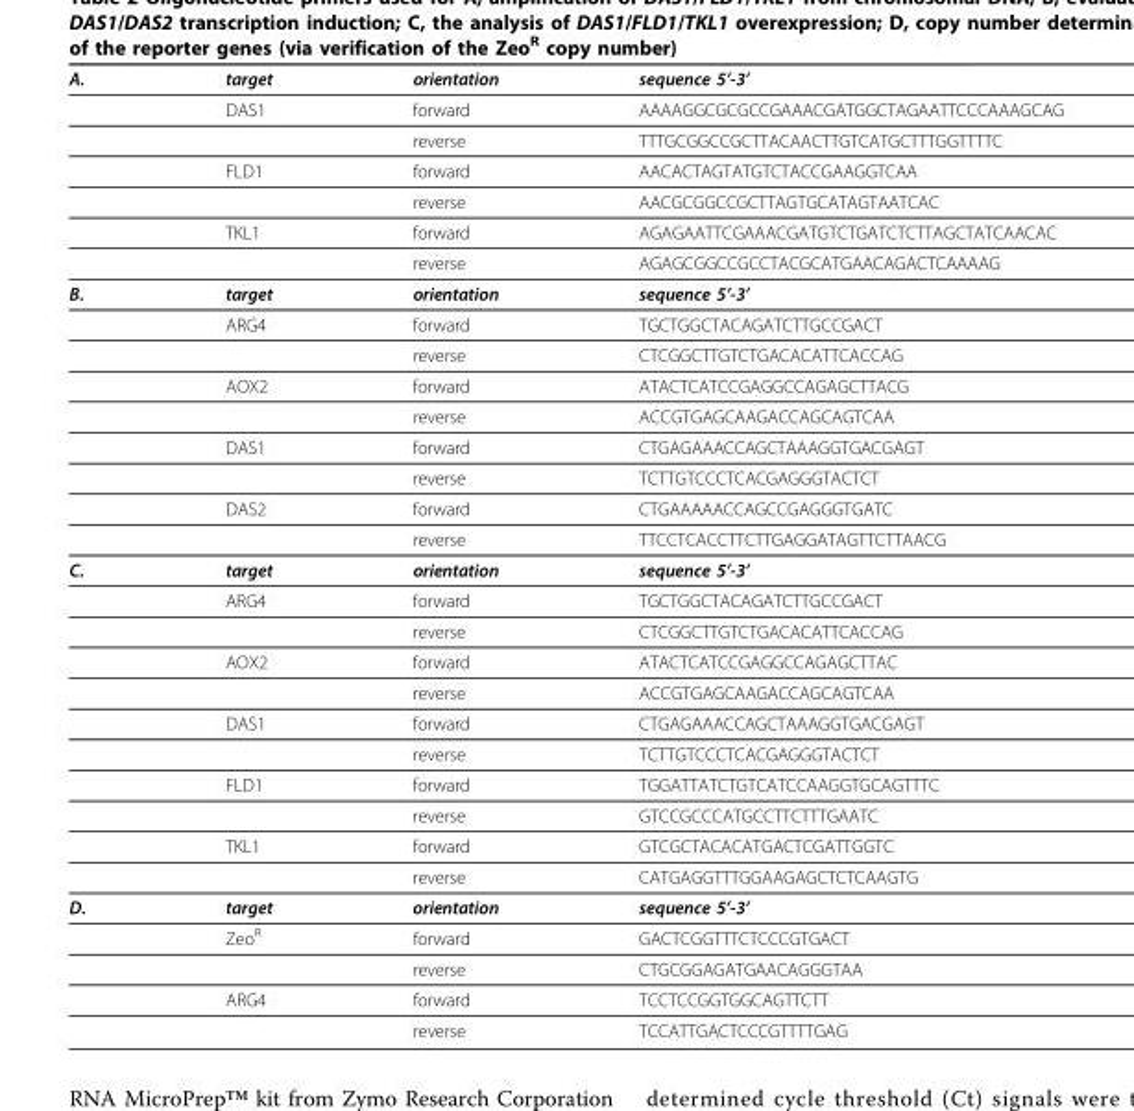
<table><thead><tr><td>A.</td><td>target</td><td>orientation</td><td>sequence 5’-3’</td></tr></thead><tbody><tr><td></td><td>DAS1</td><td>forward</td><td>AAAAGGCGCGCCGAAACGATGGCTAGAATTCCCAAAGCAG</td></tr><tr><td></td><td></td><td>reverse</td><td>TTTGCGGCCGCTTACAACTTGTCATGCTTTGGTTTTC</td></tr><tr><td></td><td>FLD1</td><td>forward</td><td>AACACTAGTATGTCTACCGAAGGTCAA</td></tr><tr><td></td><td></td><td>reverse</td><td>AACGCGGCCGCTTAGTGCATAGTAATCAC</td></tr><tr><td></td><td>TKL1</td><td>forward</td><td>AGAGAATTCGAAACGATGTCTGATCTCTTAGCTATCAACAC</td></tr><tr><td></td><td></td><td>reverse</td><td>AGAGCGGCCGCCTACGCATGAACAGACTCAAAAG</td></tr><tr><td rowspan="9">B.</td><td>target</td><td>orientation</td><td>sequence 5’-3’</td></tr><tr><td>ARG4</td><td>forward</td><td>TGCTGGCTACAGATCTTGCCGACT</td></tr><tr><td></td><td>reverse</td><td>CTCGGCTTGTCTGACACATTCACCAG</td></tr><tr><td>AOX2</td><td>forward</td><td>ATACTCATCCGAGGCCAGAGCTTACG</td></tr><tr><td></td><td>reverse</td><td>ACCGTGAGCAAGACCAGCAGTCAA</td></tr><tr><td>DAS1</td><td>forward</td><td>CTGAGAAACCAGCTAAAGGTGACGAGT</td></tr><tr><td></td><td>reverse</td><td>TCTTGTCCCTCACGAGGGTACTCT</td></tr><tr><td>DAS2</td><td>forward</td><td>CTGAAAAACCAGCCGAGGGTGATC</td></tr><tr><td></td><td>reverse</td><td>TTCCTCACCTTCTTGAGGATAGTTCTTAACG</td></tr><tr><td rowspan="11">C.</td><td>target</td><td>orientation</td><td>sequence 5’-3’</td></tr><tr><td>ARG4</td><td>forward</td><td>TGCTGGCTACAGATCTTGCCGACT</td></tr><tr><td></td><td>reverse</td><td>CTCGGCTTGTCTGACACATTCACCAG</td></tr><tr><td>AOX2</td><td>forward</td><td>ATACTCATCCGAGGCCAGAGCTTAC</td></tr><tr><td></td><td>reverse</td><td>ACCGTGAGCAAGACCAGCAGTCAA</td></tr><tr><td>DAS1</td><td>forward</td><td>CTGAGAAACCAGCTAAAGGTGACGAGT</td></tr><tr><td></td><td>reverse</td><td>TCTTGTCCCTCACGAGGGTACTCT</td></tr><tr><td>FLD1</td><td>forward</td><td>TGGATTATCTGTCATCCAAGGTGCAGTTTC</td></tr><tr><td></td><td>reverse</td><td>GTCCGCCCATGCCTTCTTTGAATC</td></tr><tr><td>TKL1</td><td>forward</td><td>GTCGCTACACATGACTCGATTGGTC</td></tr><tr><td></td><td>reverse</td><td>CATGAGGTTTGGAAGAGCTCTCAAGTG</td></tr><tr><td rowspan="5">D.</td><td>target</td><td>orientation</td><td>sequence 5’-3’</td></tr><tr><td>Zeo<sup>R</sup></td><td>forward</td><td>GACTCGGTTTCTCCCGTGACT</td></tr><tr><td></td><td>reverse</td><td>CTGCGGAGATGAACAGGGTAA</td></tr><tr><td>ARG4</td><td>forward</td><td>TCCTCCGGTGGCAGTTCTT</td></tr><tr><td></td><td>reverse</td><td>TCCATTGACTCCCGTTTTGAG</td></tr></tbody></table>